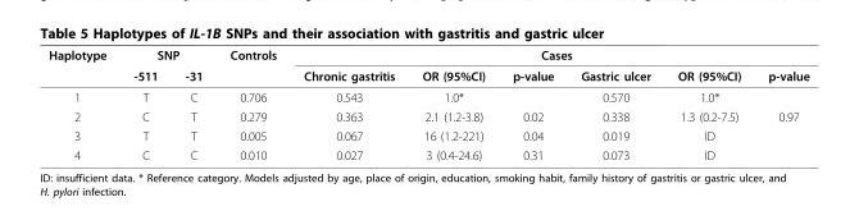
<table><thead><tr><td rowspan="2">Haplotype</td><td colspan="2">SNP</td><td rowspan="2">Controls</td><td colspan="6">Cases</td></tr><tr><td>-511</td><td>-31</td><td>Chronic gastritis</td><td>OR (95%CI)</td><td>p-value</td><td>Gastric ulcer</td><td>OR (95%CI)</td><td>p-value</td></tr></thead><tbody><tr><td>1</td><td>T</td><td>C</td><td>0.706</td><td>0.543</td><td>1.0*</td><td></td><td>0.570</td><td>1.0*</td><td></td></tr><tr><td>2</td><td>C</td><td>T</td><td>0.279</td><td>0.363</td><td>2.1 (1.2-3.8)</td><td>0.02</td><td>0.338</td><td>1.3 (0.2-7.5)</td><td>0.97</td></tr><tr><td>3</td><td>T</td><td>T</td><td>0.005</td><td>0.067</td><td>16 (1.2-221)</td><td>0.04</td><td>0.019</td><td>ID</td><td></td></tr><tr><td>4</td><td>C</td><td>C</td><td>0.010</td><td>0.027</td><td>3 (0.4-24.6)</td><td>0.31</td><td>0.073</td><td>ID</td><td></td></tr></tbody></table>